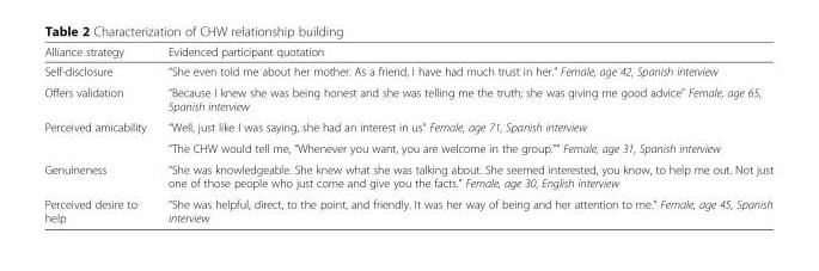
<table><thead><tr><td>Alliance strategy</td><td>Evidenced participant quotation</td></tr></thead><tbody><tr><td>Self-disclosure</td><td>“She even told me about her mother. As a friend, I have had much trust in her.” Female, age 42, Spanish interview</td></tr><tr><td>Offers validation</td><td>“Because I knew she was being honest and she was telling me the truth; she was giving me good advice” Female, age 65, Spanish interview</td></tr><tr><td rowspan="2">Perceived amicability</td><td>“Well, just like I was saying, she had an interest in us” Female, age 71, Spanish interview</td></tr><tr><td>“The CHW would tell me, “Whenever you want, you are welcome in the group.”” Female, age 31, Spanish interview</td></tr><tr><td>Genuineness</td><td>“She was knowledgeable. She knew what she was talking about. She seemed interested, you know, to help me out. Not just one of those people who just come and give you the facts.” Female, age 30, English interview</td></tr><tr><td>Perceived desire to help</td><td>“She was helpful, direct, to the point, and friendly. It was her way of being and her attention to me.” Female, age 45, Spanish interview</td></tr></tbody></table>